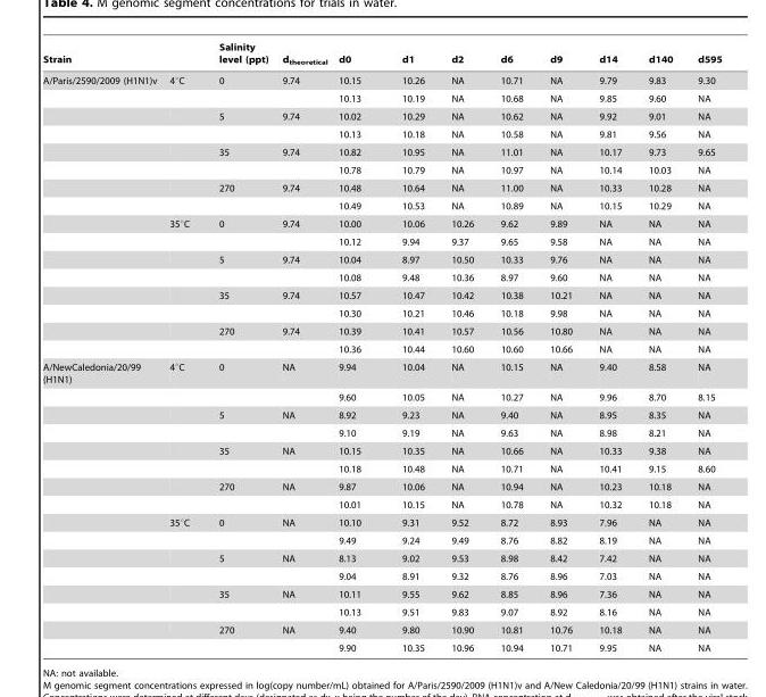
<table><thead><tr><td>Strain</td><td></td><td>Salinity level (ppt)</td><td>d<sub>theoretical</sub></td><td>d0</td><td>d1</td><td>d2</td><td>d6</td><td>d9</td><td>d14</td><td>d140</td><td>d595</td></tr></thead><tbody><tr><td rowspan="16">A/Paris/2590/2009 (H1N1)v</td><td>4°C</td><td>0</td><td>9.74</td><td>10.15</td><td>10.26</td><td>NA</td><td>10.71</td><td>NA</td><td>9.79</td><td>9.83</td><td>9.30</td></tr><tr><td></td><td></td><td></td><td>10.13</td><td>10.19</td><td>NA</td><td>10.68</td><td>NA</td><td>9.85</td><td>9.60</td><td>NA</td></tr><tr><td></td><td>5</td><td>9.74</td><td>10.02</td><td>10.29</td><td>NA</td><td>10.62</td><td>NA</td><td>9.92</td><td>9.01</td><td>NA</td></tr><tr><td></td><td></td><td></td><td>10.13</td><td>10.18</td><td>NA</td><td>10.58</td><td>NA</td><td>9.81</td><td>9.56</td><td>NA</td></tr><tr><td></td><td>35</td><td>9.74</td><td>10.82</td><td>10.95</td><td>NA</td><td>11.01</td><td>NA</td><td>10.17</td><td>9.73</td><td>9.65</td></tr><tr><td></td><td></td><td></td><td>10.78</td><td>10.79</td><td>NA</td><td>10.97</td><td>NA</td><td>10.14</td><td>10.03</td><td>NA</td></tr><tr><td></td><td>270</td><td>9.74</td><td>10.48</td><td>10.64</td><td>NA</td><td>11.00</td><td>NA</td><td>10.33</td><td>10.28</td><td>NA</td></tr><tr><td></td><td></td><td></td><td>10.49</td><td>10.53</td><td>NA</td><td>10.89</td><td>NA</td><td>10.15</td><td>10.29</td><td>NA</td></tr><tr><td>35°C</td><td>0</td><td>9.74</td><td>10.00</td><td>10.06</td><td>10.26</td><td>9.62</td><td>9.89</td><td>NA</td><td>NA</td><td>NA</td></tr><tr><td></td><td></td><td></td><td>10.12</td><td>9.94</td><td>9.37</td><td>9.65</td><td>9.58</td><td>NA</td><td>NA</td><td>NA</td></tr><tr><td></td><td>5</td><td>9.74</td><td>10.04</td><td>8.97</td><td>10.50</td><td>10.33</td><td>9.76</td><td>NA</td><td>NA</td><td>NA</td></tr><tr><td></td><td></td><td></td><td>10.08</td><td>9.48</td><td>10.36</td><td>8.97</td><td>9.60</td><td>NA</td><td>NA</td><td>NA</td></tr><tr><td></td><td>35</td><td>9.74</td><td>10.57</td><td>10.47</td><td>10.42</td><td>10.38</td><td>10.21</td><td>NA</td><td>NA</td><td>NA</td></tr><tr><td></td><td></td><td></td><td>10.30</td><td>10.21</td><td>10.46</td><td>10.18</td><td>9.98</td><td>NA</td><td>NA</td><td>NA</td></tr><tr><td></td><td>270</td><td>9.74</td><td>10.39</td><td>10.41</td><td>10.57</td><td>10.56</td><td>10.80</td><td>NA</td><td>NA</td><td>NA</td></tr><tr><td></td><td></td><td></td><td>10.36</td><td>10.44</td><td>10.60</td><td>10.60</td><td>10.66</td><td>NA</td><td>NA</td><td>NA</td></tr><tr><td rowspan="16">A/NewCaledonia/20/99 (H1N1)</td><td>4°C</td><td>0</td><td>NA</td><td>9.94</td><td>10.04</td><td>NA</td><td>10.15</td><td>NA</td><td>9.40</td><td>8.58</td><td>NA</td></tr><tr><td></td><td></td><td></td><td>9.60</td><td>10.05</td><td>NA</td><td>10.27</td><td>NA</td><td>9.96</td><td>8.70</td><td>8.15</td></tr><tr><td></td><td>5</td><td>NA</td><td>8.92</td><td>9.23</td><td>NA</td><td>9.40</td><td>NA</td><td>8.95</td><td>8.35</td><td>NA</td></tr><tr><td></td><td></td><td></td><td>9.10</td><td>9.19</td><td>NA</td><td>9.63</td><td>NA</td><td>8.98</td><td>8.21</td><td>NA</td></tr><tr><td></td><td>35</td><td>NA</td><td>10.15</td><td>10.35</td><td>NA</td><td>10.66</td><td>NA</td><td>10.33</td><td>9.38</td><td>NA</td></tr><tr><td></td><td></td><td></td><td>10.18</td><td>10.48</td><td>NA</td><td>10.71</td><td>NA</td><td>10.41</td><td>9.15</td><td>8.60</td></tr><tr><td></td><td>270</td><td>NA</td><td>9.87</td><td>10.06</td><td>NA</td><td>10.94</td><td>NA</td><td>10.23</td><td>10.18</td><td>NA</td></tr><tr><td></td><td></td><td></td><td>10.01</td><td>10.15</td><td>NA</td><td>10.78</td><td>NA</td><td>10.32</td><td>10.18</td><td>NA</td></tr><tr><td>35°C</td><td>0</td><td>NA</td><td>10.10</td><td>9.31</td><td>9.52</td><td>8.72</td><td>8.93</td><td>7.96</td><td>NA</td><td>NA</td></tr><tr><td></td><td></td><td></td><td>9.49</td><td>9.24</td><td>9.49</td><td>8.76</td><td>8.82</td><td>8.19</td><td>NA</td><td>NA</td></tr><tr><td></td><td>5</td><td>NA</td><td>8.13</td><td>9.02</td><td>9.53</td><td>8.98</td><td>8.42</td><td>7.42</td><td>NA</td><td>NA</td></tr><tr><td></td><td></td><td></td><td>9.04</td><td>8.91</td><td>9.32</td><td>8.76</td><td>8.96</td><td>7.03</td><td>NA</td><td>NA</td></tr><tr><td></td><td>35</td><td>NA</td><td>10.11</td><td>9.55</td><td>9.62</td><td>8.85</td><td>8.96</td><td>7.36</td><td>NA</td><td>NA</td></tr><tr><td></td><td></td><td></td><td>10.13</td><td>9.51</td><td>9.83</td><td>9.07</td><td>8.92</td><td>8.16</td><td>NA</td><td>NA</td></tr><tr><td></td><td>270</td><td>NA</td><td>9.40</td><td>9.80</td><td>10.90</td><td>10.81</td><td>10.76</td><td>10.18</td><td>NA</td><td>NA</td></tr><tr><td></td><td></td><td></td><td>9.90</td><td>10.35</td><td>10.96</td><td>10.94</td><td>10.71</td><td>9.95</td><td>NA</td><td>NA</td></tr></tbody></table>